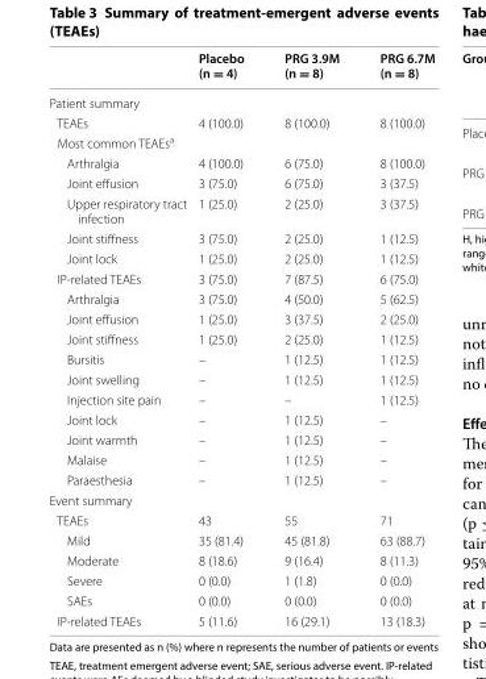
<table><thead><tr><td></td><td>Placebo (n = 4)</td><td>PRG 3.9M (n = 8)</td><td>PRG 6.7M (n = 8)</td></tr></thead><tbody><tr><td colspan="4">Patient summary</td></tr><tr><td>TEAEs</td><td>4 (100.0)</td><td>8 (100.0)</td><td>8 (100.0)</td></tr><tr><td colspan="4">Most common TEAEs<sup>a</sup></td></tr><tr><td>Arthralgia</td><td>4 (100.0)</td><td>6 (75.0)</td><td>8 (100.0)</td></tr><tr><td>Joint effusion</td><td>3 (75.0)</td><td>6 (75.0)</td><td>3 (37.5)</td></tr><tr><td>Upper respiratory tract infection</td><td>1 (25.0)</td><td>2 (25.0)</td><td>3 (37.5)</td></tr><tr><td>Joint stiffness</td><td>3 (75.0)</td><td>2 (25.0)</td><td>1 (12.5)</td></tr><tr><td>Joint lock</td><td>1 (25.0)</td><td>2 (25.0)</td><td>1 (12.5)</td></tr><tr><td>IP-related TEAEs</td><td>3 (75.0)</td><td>7 (87.5)</td><td>6 (75.0)</td></tr><tr><td>Arthralgia</td><td>3 (75.0)</td><td>4 (50.0)</td><td>5 (62.5)</td></tr><tr><td>Joint effusion</td><td>1 (25.0)</td><td>3 (37.5)</td><td>2 (25.0)</td></tr><tr><td>Joint stiffness</td><td>1 (25.0)</td><td>2 (25.0)</td><td>1 (12.5)</td></tr><tr><td>Bursitis</td><td>–</td><td>1 (12.5)</td><td>1 (12.5)</td></tr><tr><td>Joint swelling</td><td>–</td><td>1 (12.5)</td><td>1 (12.5)</td></tr><tr><td>Injection site pain</td><td>–</td><td>–</td><td>1 (12.5)</td></tr><tr><td>Joint lock</td><td>–</td><td>1 (12.5)</td><td>–</td></tr><tr><td>Joint warmth</td><td>–</td><td>1 (12.5)</td><td>–</td></tr><tr><td>Malaise</td><td>–</td><td>1 (12.5)</td><td>–</td></tr><tr><td>Paraesthesia</td><td>–</td><td>1 (12.5)</td><td>–</td></tr><tr><td colspan="4">Event summary</td></tr><tr><td>TEAEs</td><td>43</td><td>55</td><td>71</td></tr><tr><td>Mild</td><td>35 (81.4)</td><td>45 (81.8)</td><td>63 (88.7)</td></tr><tr><td>Moderate</td><td>8 (18.6)</td><td>9 (16.4)</td><td>8 (11.3)</td></tr><tr><td>Severe</td><td>0 (0.0)</td><td>1 (1.8)</td><td>0 (0.0)</td></tr><tr><td>SAEs</td><td>0 (0.0)</td><td>0 (0.0)</td><td>0 (0.0)</td></tr><tr><td>IP-related TEAEs</td><td>5 (11.6)</td><td>16 (29.1)</td><td>13 (18.3)</td></tr></tbody></table>